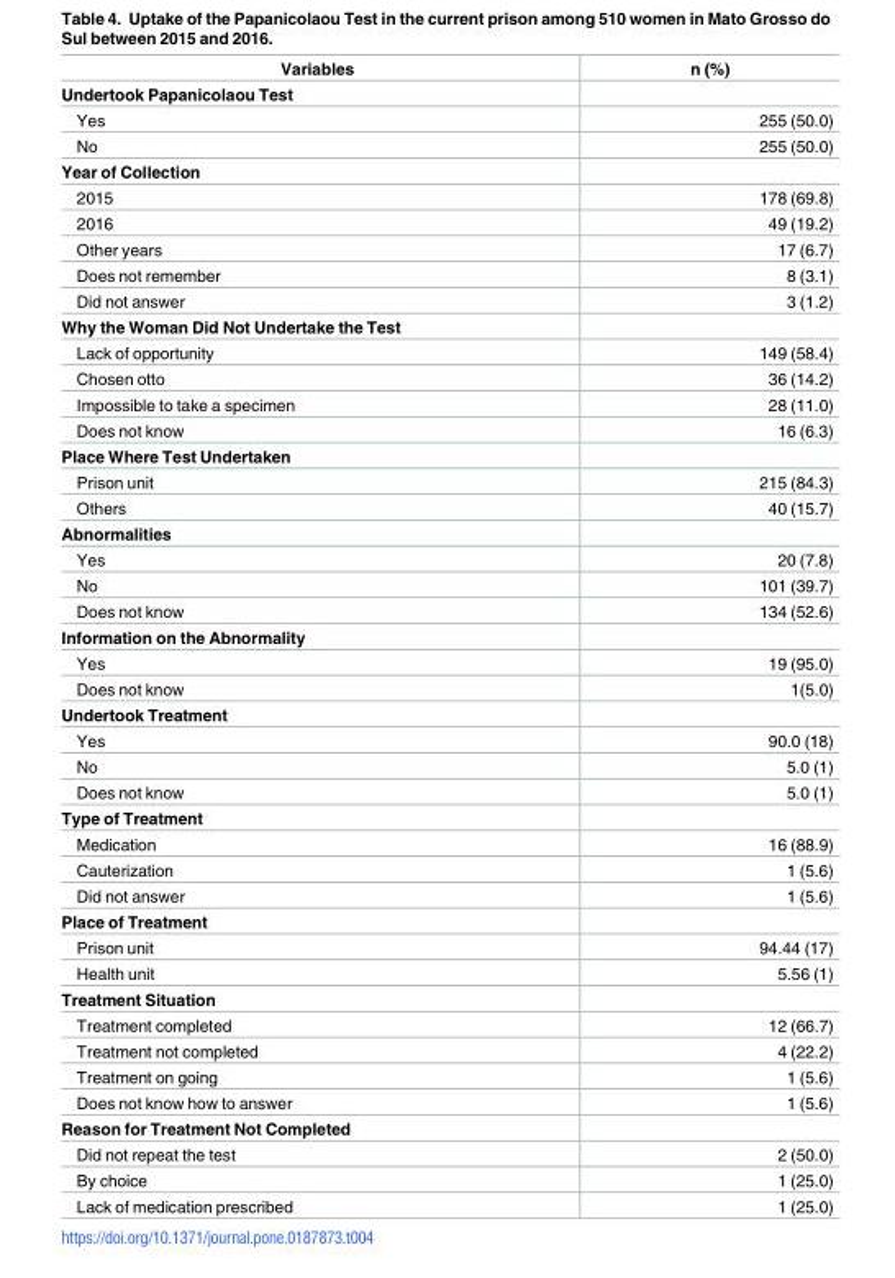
<table><thead><tr><td>Variables</td><td>n (%)</td></tr></thead><tbody><tr><td colspan="2">Undertook Papanicolaou Test</td></tr><tr><td>Yes</td><td>255 (50.0)</td></tr><tr><td>No</td><td>255 (50.0)</td></tr><tr><td colspan="2">Year of Collection</td></tr><tr><td>2015</td><td>178 (69.8)</td></tr><tr><td>2016</td><td>49 (19.2)</td></tr><tr><td>Other years</td><td>17 (6.7)</td></tr><tr><td>Does not remember</td><td>8 (3.1)</td></tr><tr><td>Did not answer</td><td>3 (1.2)</td></tr><tr><td colspan="2">Why the Woman Did Not Undertake the Test</td></tr><tr><td>Lack of opportunity</td><td>149 (58.4)</td></tr><tr><td>Chosen otto</td><td>36 (14.2)</td></tr><tr><td>Impossible to take a specimen</td><td>28 (11.0)</td></tr><tr><td>Does not know</td><td>16 (6.3)</td></tr><tr><td colspan="2">Place Where Test Undertaken</td></tr><tr><td>Prison unit</td><td>215 (84.3)</td></tr><tr><td>Others</td><td>40 (15.7)</td></tr><tr><td colspan="2">Abnormalities</td></tr><tr><td>Yes</td><td>20 (7.8)</td></tr><tr><td>No</td><td>101 (39.7)</td></tr><tr><td>Does not know</td><td>134 (52.6)</td></tr><tr><td colspan="2">Information on the Abnormality</td></tr><tr><td>Yes</td><td>19 (95.0)</td></tr><tr><td>Does not know</td><td>1(5.0)</td></tr><tr><td colspan="2">Undertook Treatment</td></tr><tr><td>Yes</td><td>90.0 (18)</td></tr><tr><td>No</td><td>5.0 (1)</td></tr><tr><td>Does not know</td><td>5.0 (1)</td></tr><tr><td colspan="2">Type of Treatment</td></tr><tr><td>Medication</td><td>16 (88.9)</td></tr><tr><td>Cauterization</td><td>1 (5.6)</td></tr><tr><td>Did not answer</td><td>1 (5.6)</td></tr><tr><td colspan="2">Place of Treatment</td></tr><tr><td>Prison unit</td><td>94.44 (17)</td></tr><tr><td>Health unit</td><td>5.56 (1)</td></tr><tr><td colspan="2">Treatment Situation</td></tr><tr><td>Treatment completed</td><td>12 (66.7)</td></tr><tr><td>Treatment not completed</td><td>4 (22.2)</td></tr><tr><td>Treatment on going</td><td>1 (5.6)</td></tr><tr><td>Does not know how to answer</td><td>1 (5.6)</td></tr><tr><td colspan="2">Reason for Treatment Not Completed</td></tr><tr><td>Did not repeat the test</td><td>2 (50.0)</td></tr><tr><td>By choice</td><td>1 (25.0)</td></tr><tr><td>Lack of medication prescribed</td><td>1 (25.0)</td></tr></tbody></table>